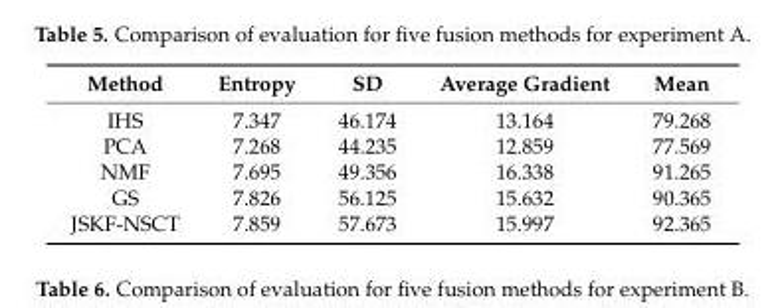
<table><thead><tr><td>Method</td><td>Entropy</td><td>SD</td><td>Average Gradient</td><td>Mean</td></tr></thead><tbody><tr><td>IHS</td><td>7.347</td><td>46.174</td><td>13.164</td><td>79.268</td></tr><tr><td>PCA</td><td>7.268</td><td>44.235</td><td>12.859</td><td>77.569</td></tr><tr><td>NMF</td><td>7.695</td><td>49.356</td><td>16.338</td><td>91.265</td></tr><tr><td>GS</td><td>7.826</td><td>56.125</td><td>15.632</td><td>90.365</td></tr><tr><td>JSKF-NSCT</td><td>7.859</td><td>57.673</td><td>15.997</td><td>92.365</td></tr></tbody></table>